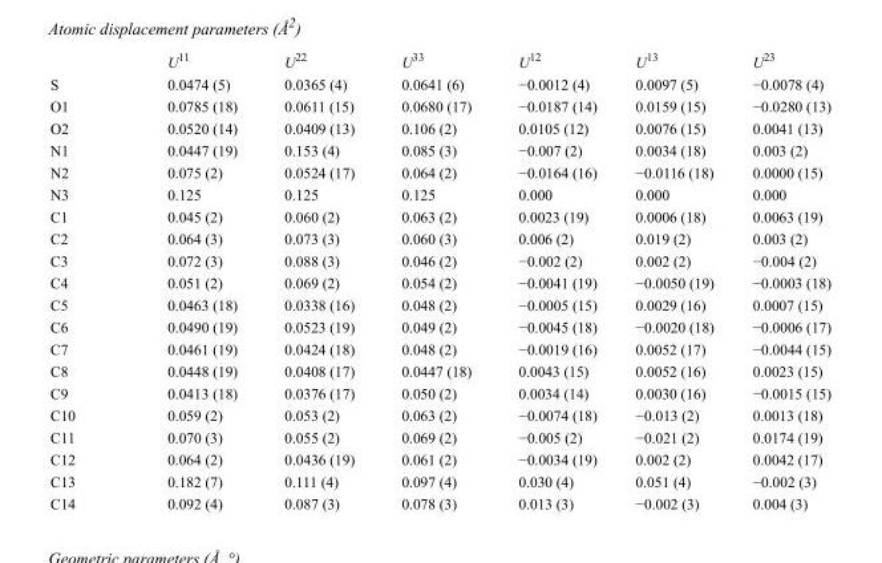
<table><thead><tr><td></td><td>U<sup>11</sup></td><td>U<sup>22</sup></td><td>U<sup>33</sup></td><td>U<sup>12</sup></td><td>U<sup>13</sup></td><td>U<sup>23</sup></td></tr></thead><tbody><tr><td>S</td><td>0.0474 (5)</td><td>0.0365 (4)</td><td>0.0641 (6)</td><td>−0.0012 (4)</td><td>0.0097 (5)</td><td>−0.0078 (4)</td></tr><tr><td>O1</td><td>0.0785 (18)</td><td>0.0611 (15)</td><td>0.0680 (17)</td><td>−0.0187 (14)</td><td>0.0159 (15)</td><td>−0.0280 (13)</td></tr><tr><td>O2</td><td>0.0520 (14)</td><td>0.0409 (13)</td><td>0.106 (2)</td><td>0.0105 (12)</td><td>0.0076 (15)</td><td>0.0041 (13)</td></tr><tr><td>N1</td><td>0.0447 (19)</td><td>0.153 (4)</td><td>0.085 (3)</td><td>−0.007 (2)</td><td>0.0034 (18)</td><td>0.003 (2)</td></tr><tr><td>N2</td><td>0.075 (2)</td><td>0.0524 (17)</td><td>0.064 (2)</td><td>−0.0164 (16)</td><td>−0.0116 (18)</td><td>0.0000 (15)</td></tr><tr><td>N3</td><td>0.125</td><td>0.125</td><td>0.125</td><td>0.000</td><td>0.000</td><td>0.000</td></tr><tr><td>C1</td><td>0.045 (2)</td><td>0.060 (2)</td><td>0.063 (2)</td><td>0.0023 (19)</td><td>0.0006 (18)</td><td>0.0063 (19)</td></tr><tr><td>C2</td><td>0.064 (3)</td><td>0.073 (3)</td><td>0.060 (3)</td><td>0.006 (2)</td><td>0.019 (2)</td><td>0.003 (2)</td></tr><tr><td>C3</td><td>0.072 (3)</td><td>0.088 (3)</td><td>0.046 (2)</td><td>−0.002 (2)</td><td>0.002 (2)</td><td>−0.004 (2)</td></tr><tr><td>C4</td><td>0.051 (2)</td><td>0.069 (2)</td><td>0.054 (2)</td><td>−0.0041 (19)</td><td>−0.0050 (19)</td><td>−0.0003 (18)</td></tr><tr><td>C5</td><td>0.0463 (18)</td><td>0.0338 (16)</td><td>0.048 (2)</td><td>−0.0005 (15)</td><td>0.0029 (16)</td><td>0.0007 (15)</td></tr><tr><td>C6</td><td>0.0490 (19)</td><td>0.0523 (19)</td><td>0.049 (2)</td><td>−0.0045 (18)</td><td>−0.0020 (18)</td><td>−0.0006 (17)</td></tr><tr><td>C7</td><td>0.0461 (19)</td><td>0.0424 (18)</td><td>0.048 (2)</td><td>−0.0019 (16)</td><td>0.0052 (17)</td><td>−0.0044 (15)</td></tr><tr><td>C8</td><td>0.0448 (19)</td><td>0.0408 (17)</td><td>0.0447 (18)</td><td>0.0043 (15)</td><td>0.0052 (16)</td><td>0.0023 (15)</td></tr><tr><td>C9</td><td>0.0413 (18)</td><td>0.0376 (17)</td><td>0.050 (2)</td><td>0.0034 (14)</td><td>0.0030 (16)</td><td>−0.0015 (15)</td></tr><tr><td>C10</td><td>0.059 (2)</td><td>0.053 (2)</td><td>0.063 (2)</td><td>−0.0074 (18)</td><td>−0.013 (2)</td><td>0.0013 (18)</td></tr><tr><td>C11</td><td>0.070 (3)</td><td>0.055 (2)</td><td>0.069 (2)</td><td>−0.005 (2)</td><td>−0.021 (2)</td><td>0.0174 (19)</td></tr><tr><td>C12</td><td>0.064 (2)</td><td>0.0436 (19)</td><td>0.061 (2)</td><td>−0.0034 (19)</td><td>0.002 (2)</td><td>0.0042 (17)</td></tr><tr><td>C13</td><td>0.182 (7)</td><td>0.111 (4)</td><td>0.097 (4)</td><td>0.030 (4)</td><td>0.051 (4)</td><td>−0.002 (3)</td></tr><tr><td>C14</td><td>0.092 (4)</td><td>0.087 (3)</td><td>0.078 (3)</td><td>0.013 (3)</td><td>−0.002 (3)</td><td>0.004 (3)</td></tr></tbody></table>